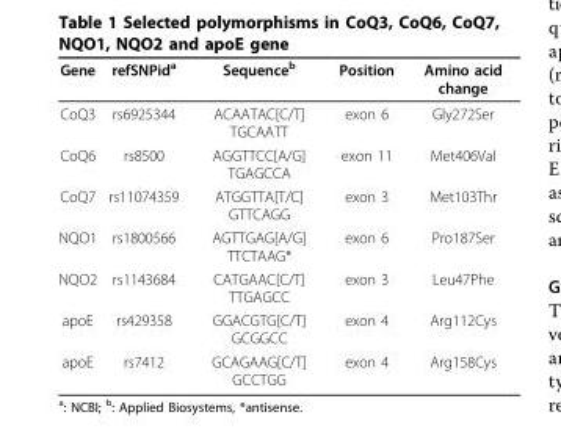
<table><thead><tr><td>Gene</td><td>refSNPid<sup>a</sup></td><td>Sequence<sup>b</sup></td><td>Position</td><td>Amino acid change</td></tr></thead><tbody><tr><td>CoQ3</td><td>rs6925344</td><td>ACAATAC[C/T] TGCAATT</td><td>exon 6</td><td>Gly272Ser</td></tr><tr><td>CoQ6</td><td>rs8500</td><td>AGGTTCC[A/G] TGAGCCA</td><td>exon 11</td><td>Met406Val</td></tr><tr><td>CoQ7</td><td>rs11074359</td><td>ATGGTTA[T/C] GTTCAGG</td><td>exon 3</td><td>Met103Thr</td></tr><tr><td>NQO1</td><td>rs1800566</td><td>AGTTGAG[A/G] TTCTAAG*</td><td>exon 6</td><td>Pro187Ser</td></tr><tr><td>NQO2</td><td>rs1143684</td><td>CATGAAC[C/T] TTGAGCC</td><td>exon 3</td><td>Leu47Phe</td></tr><tr><td>apoE</td><td>rs429358</td><td>GGACGTG[C/T] GCGGCC</td><td>exon 4</td><td>Arg112Cys</td></tr><tr><td>apoE</td><td>rs7412</td><td>GCAGAAG[C/T] GCCTGG</td><td>exon 4</td><td>Arg158Cys</td></tr></tbody></table>